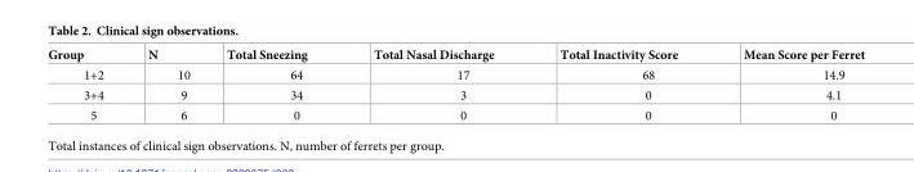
<table><thead><tr><td>Group</td><td>N</td><td>Total Sneezing</td><td>Total Nasal Discharge</td><td>Total Inactivity Score</td><td>Mean Score per Ferret</td></tr></thead><tbody><tr><td>1+2</td><td>10</td><td>64</td><td>17</td><td>68</td><td>14.9</td></tr><tr><td>3+4</td><td>9</td><td>34</td><td>3</td><td>0</td><td>4.1</td></tr><tr><td>5</td><td>6</td><td>0</td><td>0</td><td>0</td><td>0</td></tr></tbody></table>